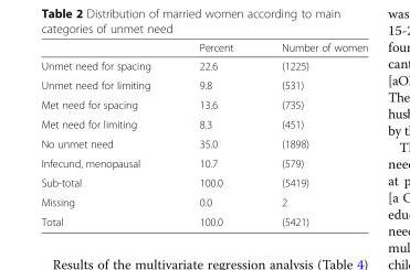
<table><thead><tr><td></td><td>Percent</td><td>Number of women</td></tr></thead><tbody><tr><td>Unmet need for spacing</td><td>22.6</td><td>(1225)</td></tr><tr><td>Unmet need for limiting</td><td>9.8</td><td>(531)</td></tr><tr><td>Met need for spacing</td><td>13.6</td><td>(735)</td></tr><tr><td>Met need for limiting</td><td>8.3</td><td>(451)</td></tr><tr><td>No unmet need</td><td>35.0</td><td>(1898)</td></tr><tr><td>Infecund, menopausal</td><td>10.7</td><td>(579)</td></tr><tr><td>Sub-total</td><td>100.0</td><td>(5419)</td></tr><tr><td>Missing</td><td>0.0</td><td>2</td></tr><tr><td>Total</td><td>100.0</td><td>(5421)</td></tr></tbody></table>